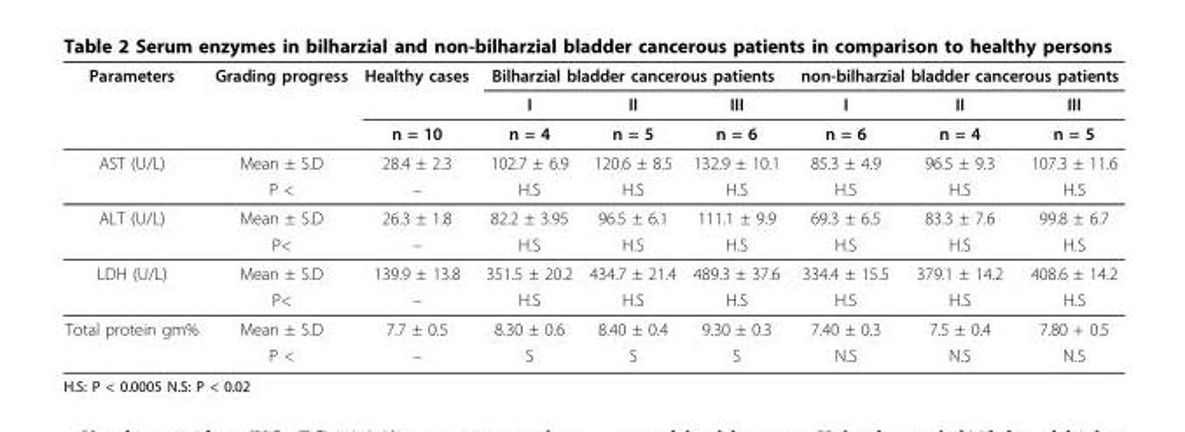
<table><thead><tr><td rowspan="3">Parameters</td><td rowspan="3">Grading progress</td><td rowspan="3">Healthy cases n = 10</td><td colspan="3">Bilharzial bladder cancerous patients</td><td colspan="3">non-bilharzial bladder cancerous patients</td></tr><tr><td rowspan="2">I n = 4</td><td rowspan="2">II n = 5</td><td rowspan="2">III n = 6</td><td rowspan="2">I n = 6</td><td rowspan="2">II n = 4</td><td rowspan="2">III n = 5</td></tr><tr></tr></thead><tbody><tr><td rowspan="2">AST (U/L)</td><td>Mean ± S.D</td><td>28.4 ± 2.3</td><td>102.7 ± 6.9</td><td>120.6 ± 8.5</td><td>132.9 ± 10.1</td><td>85.3 ± 4.9</td><td>96.5 ± 9.3</td><td>107.3 ± 11.6</td></tr><tr><td>P &lt;</td><td>–</td><td>H.S</td><td>H.S</td><td>H.S</td><td>H.S</td><td>H.S</td><td>H.S</td></tr><tr><td rowspan="2">ALT (U/L)</td><td>Mean ± S.D</td><td>26.3 ± 1.8</td><td>82.2 ± 3.95</td><td>96.5 ± 6.1</td><td>111.1 ± 9.9</td><td>69.3 ± 6.5</td><td>83.3 ± 7.6</td><td>99.8 ± 6.7</td></tr><tr><td>P&lt;</td><td>–</td><td>H.S</td><td>H.S</td><td>H.S</td><td>H.S</td><td>H.S</td><td>H.S</td></tr><tr><td rowspan="2">LDH (U/L)</td><td>Mean ± S.D</td><td>139.9 ± 13.8</td><td>351.5 ± 20.2</td><td>434.7 ± 21.4</td><td>489.3 ± 37.6</td><td>334.4 ± 15.5</td><td>379.1 ± 14.2</td><td>408.6 ± 14.2</td></tr><tr><td>P&lt;</td><td>–</td><td>H.S</td><td>H.S</td><td>H.S</td><td>H.S</td><td>H.S</td><td>H.S</td></tr><tr><td rowspan="2">Total protein gm%</td><td>Mean ± S.D</td><td>7.7 ± 0.5</td><td>8.30 ± 0.6</td><td>8.40 ± 0.4</td><td>9.30 ± 0.3</td><td>7.40 ± 0.3</td><td>7.5 ± 0.4</td><td>7.80 + 0.5</td></tr><tr><td>P &lt;</td><td>–</td><td>S</td><td>S</td><td>S</td><td>N.S</td><td>N.S</td><td>N.S</td></tr></tbody></table>